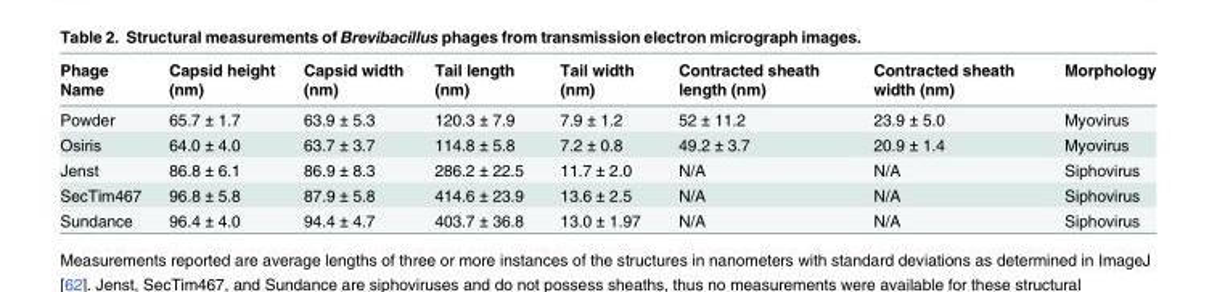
<table><thead><tr><td>Phage Name</td><td>Capsid height (nm)</td><td>Capsid width (nm)</td><td>Tail length (nm)</td><td>Tail width (nm)</td><td>Contracted sheath length (nm)</td><td>Contracted sheath width (nm)</td><td>Morphology</td></tr></thead><tbody><tr><td>Powder</td><td>65.7 ± 1.7</td><td>63.9 ± 5.3</td><td>120.3 ± 7.9</td><td>7.9 ± 1.2</td><td>52 ± 11.2</td><td>23.9 ± 5.0</td><td>Myovirus</td></tr><tr><td>Osiris</td><td>64.0 ± 4.0</td><td>63.7 ± 3.7</td><td>114.8 ± 5.8</td><td>7.2 ± 0.8</td><td>49.2 ± 3.7</td><td>20.9 ± 1.4</td><td>Myovirus</td></tr><tr><td>Jenst</td><td>86.8 ± 6.1</td><td>86.9 ± 8.3</td><td>286.2 ± 22.5</td><td>11.7 ± 2.0</td><td>N/A</td><td>N/A</td><td>Siphovirus</td></tr><tr><td>SecTim467</td><td>96.8 ± 5.8</td><td>87.9 ± 5.8</td><td>414.6 ± 23.9</td><td>13.6 ± 2.5</td><td>N/A</td><td>N/A</td><td>Siphovirus</td></tr><tr><td>Sundance</td><td>96.4 ± 4.0</td><td>94.4 ± 4.7</td><td>403.7 ± 36.8</td><td>13.0 ± 1.97</td><td>N/A</td><td>N/A</td><td>Siphovirus</td></tr></tbody></table>